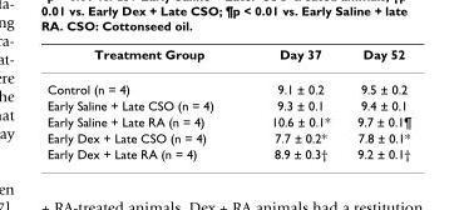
<table><thead><tr><td>Treatment Group</td><td>Day 37</td><td>Day 52</td></tr></thead><tbody><tr><td>Control (n = 4)</td><td>9.1 ± 0.2</td><td>9.5 ± 0.2</td></tr><tr><td>Early Saline + Late CSO (n = 4)</td><td>9.3 ± 0.1</td><td>9.4 ± 0.1</td></tr><tr><td>Early Saline + Late RA (n = 4)</td><td>10.6 ± 0.1*</td><td>9.7 ± 0.1¶</td></tr><tr><td>Early Dex + Late CSO (n = 4)</td><td>7.7 ± 0.2*</td><td>7.8 ± 0.1*</td></tr><tr><td>Early Dex + Late RA (n = 4)</td><td>8.9 ± 0.3†</td><td>9.2 ± 0.1†</td></tr></tbody></table>